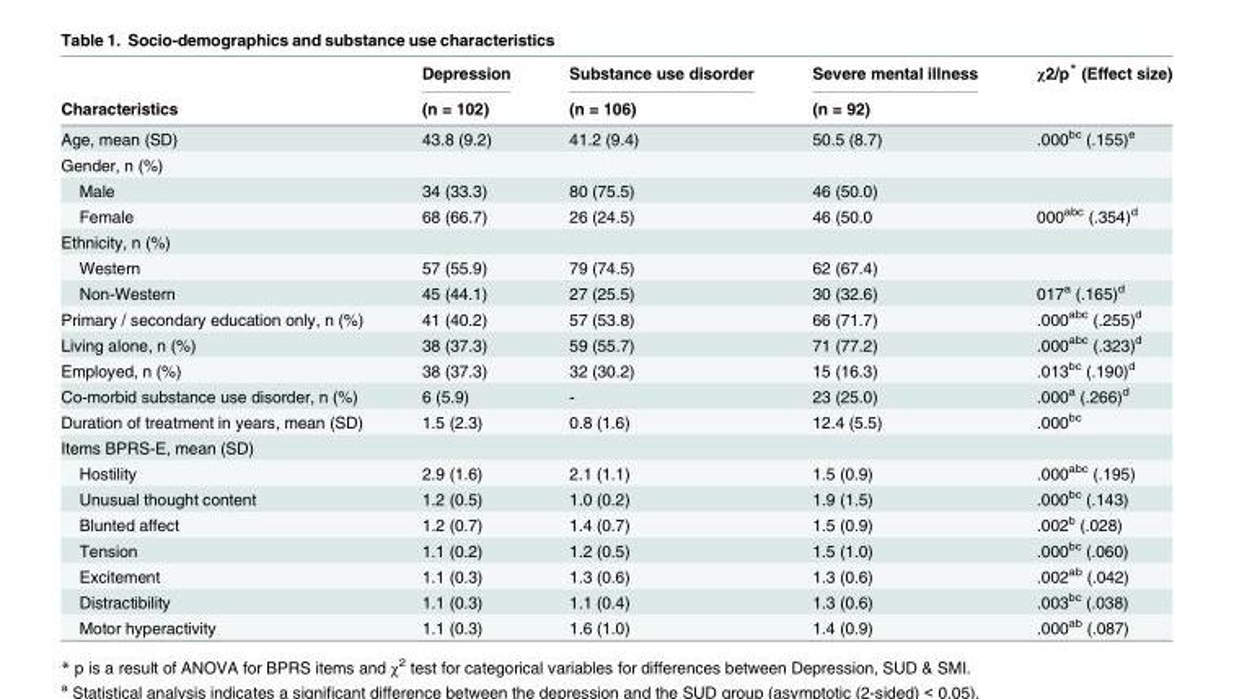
<table><thead><tr><td rowspan="2">Characteristics</td><td rowspan="2">Depression (n = 102)</td><td rowspan="2">Substance use disorder (n = 106)</td><td rowspan="2">Severe mental illness (n = 92)</td><td rowspan="2">χ2/p* (Effect size)</td></tr><tr></tr></thead><tbody><tr><td>Age, mean (SD)</td><td>43.8 (9.2)</td><td>41.2 (9.4)</td><td>50.5 (8.7)</td><td>.000<sup>bc</sup> (.155)<sup>e</sup></td></tr><tr><td colspan="5">Gender, n (%)</td></tr><tr><td>Male</td><td>34 (33.3)</td><td>80 (75.5)</td><td>46 (50.0)</td><td></td></tr><tr><td>Female</td><td>68 (66.7)</td><td>26 (24.5)</td><td>46 (50.0</td><td>000<sup>abc</sup> (.354)<sup>d</sup></td></tr><tr><td colspan="5">Ethnicity, n (%)</td></tr><tr><td>Western</td><td>57 (55.9)</td><td>79 (74.5)</td><td>62 (67.4)</td><td></td></tr><tr><td>Non-Western</td><td>45 (44.1)</td><td>27 (25.5)</td><td>30 (32.6)</td><td>017<sup>a</sup> (.165)<sup>d</sup></td></tr><tr><td>Primary / secondary education only, n (%)</td><td>41 (40.2)</td><td>57 (53.8)</td><td>66 (71.7)</td><td>.000<sup>abc</sup> (.255)<sup>d</sup></td></tr><tr><td>Living alone, n (%)</td><td>38 (37.3)</td><td>59 (55.7)</td><td>71 (77.2)</td><td>.000<sup>abc</sup> (.323)<sup>d</sup></td></tr><tr><td>Employed, n (%)</td><td>38 (37.3)</td><td>32 (30.2)</td><td>15 (16.3)</td><td>.013<sup>bc</sup> (.190)<sup>d</sup></td></tr><tr><td>Co-morbid substance use disorder, n (%)</td><td>6 (5.9)</td><td>-</td><td>23 (25.0)</td><td>.000<sup>a</sup> (.266)<sup>d</sup></td></tr><tr><td>Duration of treatment in years, mean (SD)</td><td>1.5 (2.3)</td><td>0.8 (1.6)</td><td>12.4 (5.5)</td><td>.000<sup>bc</sup></td></tr><tr><td colspan="5">Items BPRS-E, mean (SD)</td></tr><tr><td>Hostility</td><td>2.9 (1.6)</td><td>2.1 (1.1)</td><td>1.5 (0.9)</td><td>.000<sup>abc</sup> (.195)</td></tr><tr><td>Unusual thought content</td><td>1.2 (0.5)</td><td>1.0 (0.2)</td><td>1.9 (1.5)</td><td>.000<sup>bc</sup> (.143)</td></tr><tr><td>Blunted affect</td><td>1.2 (0.7)</td><td>1.4 (0.7)</td><td>1.5 (0.9)</td><td>.002<sup>b</sup> (.028)</td></tr><tr><td>Tension</td><td>1.1 (0.2)</td><td>1.2 (0.5)</td><td>1.5 (1.0)</td><td>.000<sup>bc</sup> (.060)</td></tr><tr><td>Excitement</td><td>1.1 (0.3)</td><td>1.3 (0.6)</td><td>1.3 (0.6)</td><td>.002<sup>ab</sup> (.042)</td></tr><tr><td>Distractibility</td><td>1.1 (0.3)</td><td>1.1 (0.4)</td><td>1.3 (0.6)</td><td>.003<sup>bc</sup> (.038)</td></tr><tr><td>Motor hyperactivity</td><td>1.1 (0.3)</td><td>1.6 (1.0)</td><td>1.4 (0.9)</td><td>.000<sup>ab</sup> (.087)</td></tr></tbody></table>